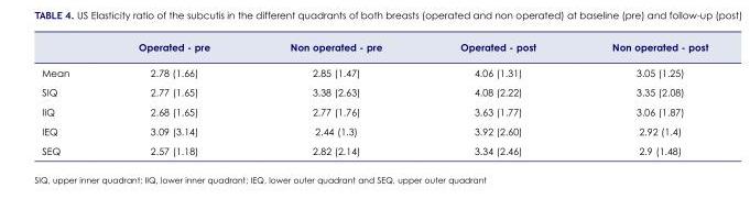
<table><thead><tr><td></td><td>Operated - pre</td><td>Non operated - pre</td><td>Operated - post</td><td>Non operated - post</td></tr></thead><tbody><tr><td>Mean</td><td>2.78 (1.66)</td><td>2.85 (1.47)</td><td>4.06 (1.31)</td><td>3.05 (1.25)</td></tr><tr><td>SIQ</td><td>2.77 (1.65)</td><td>3.38 (2.63)</td><td>4.08 (2.22)</td><td>3.35 (2.08)</td></tr><tr><td>IIQ</td><td>2.68 (1.65)</td><td>2.77 (1.76)</td><td>3.63 (1.77)</td><td>3.06 (1.87)</td></tr><tr><td>IEQ</td><td>3.09 (3.14)</td><td>2.44 (1.3)</td><td>3.92 (2.60)</td><td>2.92 (1.4)</td></tr><tr><td>SEQ</td><td>2.57 (1.18)</td><td>2.82 (2.14)</td><td>3.34 (2.46)</td><td>2.9 (1.48)</td></tr></tbody></table>